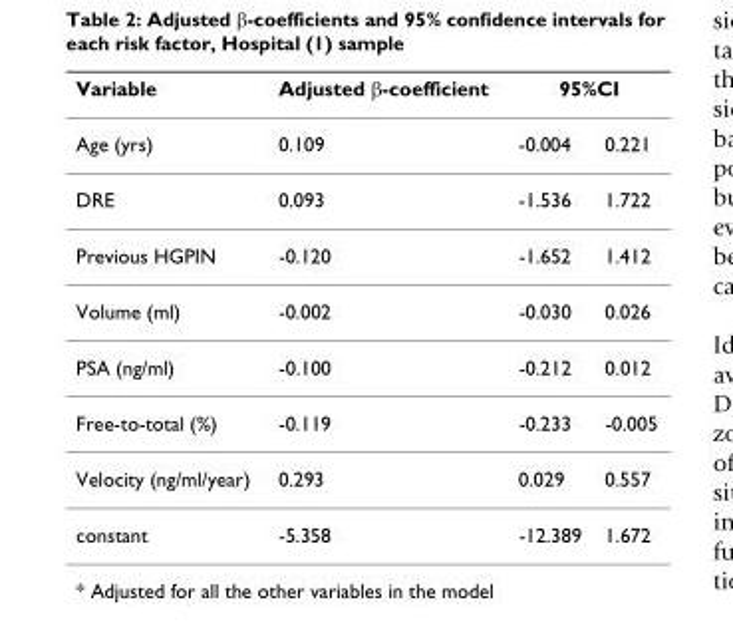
<table><thead><tr><td rowspan="2">Variable Age (yrs)</td><td rowspan="2">Adjusted β-coefficient 0.109</td><td colspan="2">95%CI</td></tr><tr><td>-0.004</td><td>0.221</td></tr></thead><tbody><tr><td>DRE</td><td>0.093</td><td>-1.536</td><td>1.722</td></tr><tr><td>Previous HGPIN</td><td>-0.120</td><td>-1.652</td><td>1.412</td></tr><tr><td>Volume (ml)</td><td>-0.002</td><td>-0.030</td><td>0.026</td></tr><tr><td>PSA (ng/ml)</td><td>-0.100</td><td>-0.212</td><td>0.012</td></tr><tr><td>Free-to-total (%)</td><td>-0.119</td><td>-0.233</td><td>-0.005</td></tr><tr><td>Velocity (ng/ml/year)</td><td>0.293</td><td>0.029</td><td>0.557</td></tr><tr><td>constant</td><td>-5.358</td><td>-12.389</td><td>1.672</td></tr></tbody></table>